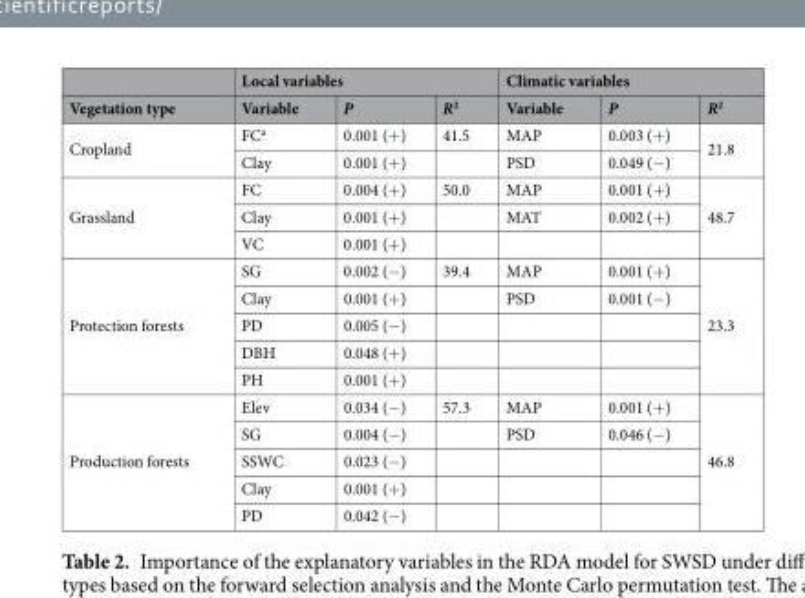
<table><thead><tr><td rowspan="2">Vegetation type</td><td colspan="3">Local variables</td><td colspan="3">Climatic variables</td></tr><tr><td>Variable</td><td>P</td><td>R<sup>2</sup></td><td>Variable</td><td>P</td><td>R<sup>2</sup></td></tr></thead><tbody><tr><td rowspan="2">Cropland</td><td>FC<sup>a</sup></td><td>0.001 (+)</td><td>41.5</td><td>MAP</td><td>0.003 (+)</td><td rowspan="2">21.8</td></tr><tr><td>Clay</td><td>0.001 (+)</td><td></td><td>PSD</td><td>0.049 (−)</td></tr><tr><td rowspan="3">Grassland</td><td>FC</td><td>0.004 (+)</td><td>50.0</td><td>MAP</td><td>0.001 (+)</td><td rowspan="3">48.7</td></tr><tr><td>Clay</td><td>0.001 (+)</td><td></td><td>MAT</td><td>0.002 (+)</td></tr><tr><td>VC</td><td>0.001 (+)</td><td></td><td></td><td></td></tr><tr><td rowspan="5">Protection forests</td><td>SG</td><td>0.002 (−)</td><td>39.4</td><td>MAP</td><td>0.001 (+)</td><td rowspan="5">23.3</td></tr><tr><td>Clay</td><td>0.001 (+)</td><td></td><td>PSD</td><td>0.001 (−)</td></tr><tr><td>PD</td><td>0.005 (−)</td><td></td><td></td><td></td></tr><tr><td>DBH</td><td>0.048 (+)</td><td></td><td></td><td></td></tr><tr><td>PH</td><td>0.001 (+)</td><td></td><td></td><td></td></tr><tr><td rowspan="5">Production forests</td><td>Elev</td><td>0.034 (−)</td><td>57.3</td><td>MAP</td><td>0.001 (+)</td><td rowspan="5">46.8</td></tr><tr><td>SG</td><td>0.004 (−)</td><td></td><td>PSD</td><td>0.046 (−)</td></tr><tr><td>SSWC</td><td>0.023 (−)</td><td></td><td></td><td></td></tr><tr><td>Clay</td><td>0.001 (+)</td><td></td><td></td><td></td></tr><tr><td>PD</td><td>0.042 (−)</td><td></td><td></td><td></td></tr></tbody></table>